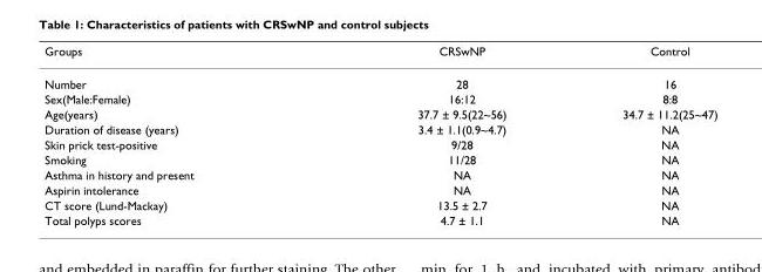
<table><thead><tr><td>Groups</td><td>CRSwNP</td><td>Control</td></tr></thead><tbody><tr><td>Number</td><td>28</td><td>16</td></tr><tr><td>Sex(Male:Female)</td><td>16:12</td><td>8:8</td></tr><tr><td>Age(years)</td><td>37.7 ± 9.5(22~56)</td><td>34.7 ± 11.2(25~47)</td></tr><tr><td>Duration of disease (years)</td><td>3.4 ± 1.1(0.9~4.7)</td><td>NA</td></tr><tr><td>Skin prick test-positive</td><td>9/28</td><td>NA</td></tr><tr><td>Smoking</td><td>11/28</td><td>NA</td></tr><tr><td>Asthma in history and present</td><td>NA</td><td>NA</td></tr><tr><td>Aspirin intolerance</td><td>NA</td><td>NA</td></tr><tr><td>CT score (Lund-Mackay)</td><td>13.5 ± 2.7</td><td>NA</td></tr><tr><td>Total polyps scores</td><td>4.7 ± 1.1</td><td>NA</td></tr></tbody></table>